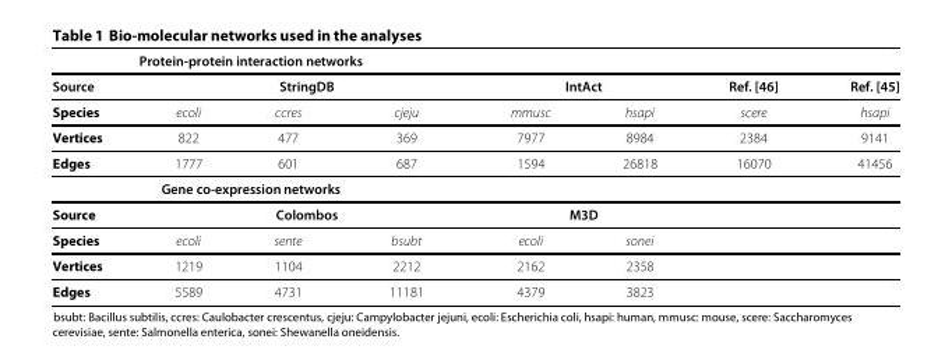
<table><thead><tr><td rowspan="2">Source</td><td colspan="2">Protein-protein interaction networks</td><td rowspan="2"></td><td></td><td></td><td rowspan="2">Ref. [46]</td><td rowspan="2">Ref. [45]</td></tr><tr><td></td><td>StringDB</td><td colspan="2">IntAct</td></tr></thead><tbody><tr><td>Species</td><td>ecoli</td><td>ccres</td><td>cjeju</td><td>mmusc</td><td>hsapi</td><td>scere</td><td>hsapi</td></tr><tr><td>Vertices</td><td>822</td><td>477</td><td>369</td><td>7977</td><td>8984</td><td>2384</td><td>9141</td></tr><tr><td rowspan="2">Edges</td><td>1777</td><td>601</td><td>687</td><td>1594</td><td>26818</td><td>16070</td><td>41456</td></tr><tr><td colspan="2">Gene co-expression networks</td><td></td><td></td><td></td><td></td><td></td></tr><tr><td>Source</td><td></td><td>Colombos</td><td></td><td colspan="2">M3D</td><td></td><td></td></tr><tr><td>Species</td><td>ecoli</td><td>sente</td><td>bsubt</td><td>ecoli</td><td>sonei</td><td></td><td></td></tr><tr><td>Vertices</td><td>1219</td><td>1104</td><td>2212</td><td>2162</td><td>2358</td><td></td><td></td></tr><tr><td>Edges</td><td>5589</td><td>4731</td><td>11181</td><td>4379</td><td>3823</td><td></td><td></td></tr></tbody></table>